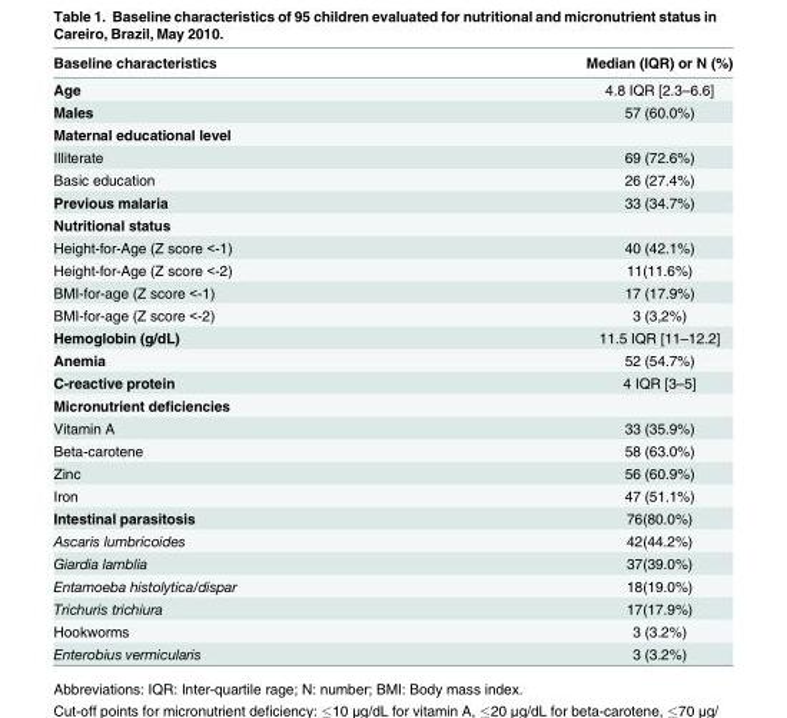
<table><thead><tr><td>Baseline characteristics</td><td>Median (IQR) or N (%)</td></tr></thead><tbody><tr><td>Age</td><td>4.8 IQR [2.3–6.6]</td></tr><tr><td>Males</td><td>57 (60.0%)</td></tr><tr><td colspan="2">Maternal educational level</td></tr><tr><td>Illiterate</td><td>69 (72.6%)</td></tr><tr><td>Basic education</td><td>26 (27.4%)</td></tr><tr><td>Previous malaria</td><td>33 (34.7%)</td></tr><tr><td colspan="2">Nutritional status</td></tr><tr><td>Height-for-Age (Z score &lt;-1)</td><td>40 (42.1%)</td></tr><tr><td>Height-for-Age (Z score &lt;-2)</td><td>11(11.6%)</td></tr><tr><td>BMI-for-age (Z score &lt;-1)</td><td>17 (17.9%)</td></tr><tr><td>BMI-for-age (Z score &lt;-2)</td><td>3 (3,2%)</td></tr><tr><td>Hemoglobin (g/dL)</td><td>11.5 IQR [11–12.2]</td></tr><tr><td>Anemia</td><td>52 (54.7%)</td></tr><tr><td>C-reactive protein</td><td>4 IQR [3–5]</td></tr><tr><td colspan="2">Micronutrient deficiencies</td></tr><tr><td>Vitamin A</td><td>33 (35.9%)</td></tr><tr><td>Beta-carotene</td><td>58 (63.0%)</td></tr><tr><td>Zinc</td><td>56 (60.9%)</td></tr><tr><td>Iron</td><td>47 (51.1%)</td></tr><tr><td>Intestinal parasitosis</td><td>76(80.0%)</td></tr><tr><td>Ascaris lumbricoides</td><td>42(44.2%)</td></tr><tr><td>Giardia lamblia</td><td>37(39.0%)</td></tr><tr><td>Entamoeba histolytica/dispar</td><td>18(19.0%)</td></tr><tr><td>Trichuris trichiura</td><td>17(17.9%)</td></tr><tr><td>Hookworms</td><td>3 (3.2%)</td></tr><tr><td>Enterobius vermicularis</td><td>3 (3.2%)</td></tr></tbody></table>